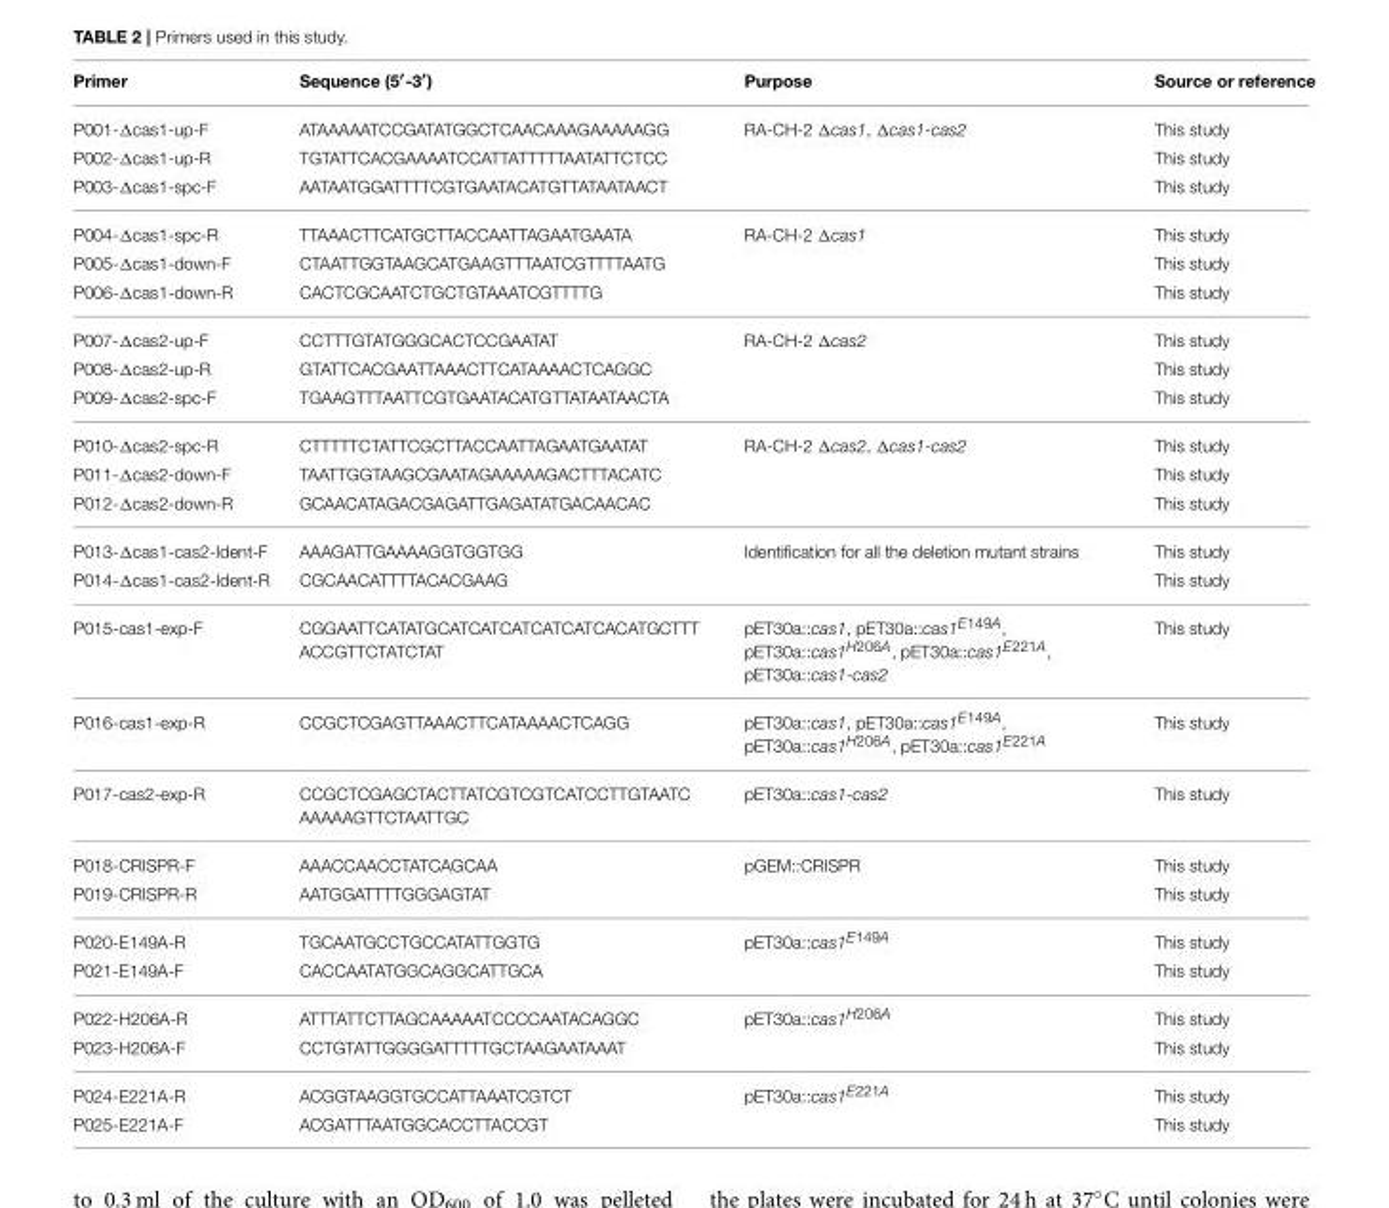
<table><thead><tr><td>Primer</td><td>Sequence (5′-3′)</td><td>Purpose</td><td>Source or reference</td></tr></thead><tbody><tr><td>P001-Δcas1-up-F</td><td>ATAAAAATCCGATATGGCTCAACAAAGAAAAAGG</td><td>RA-CH-2 Δcas1, Δcas1-cas2</td><td>This study</td></tr><tr><td>P002-Δcas1-up-R</td><td>TGTATTCACGAAAATCCATTATTTTTAATATTCTCC</td><td></td><td>This study</td></tr><tr><td>P003-Δcas1-spc-F</td><td>AATAATGGATTTTCGTGAATACATGTTATAATAACT</td><td></td><td>This study</td></tr><tr><td>P004-Δcas1-spc-R</td><td>TTAAACTTCATGCTTACCAATTAGAATGAATA</td><td>RA-CH-2 Δcas1</td><td>This study</td></tr><tr><td>P005-Δcas1-down-F</td><td>CTAATTGGTAAGCATGAAGTTTAATCGTTTTAATG</td><td></td><td>This study</td></tr><tr><td>P006-Δcas1-down-R</td><td>CACTCGCAATCTGCTGTAAATCGTTTTG</td><td></td><td>This study</td></tr><tr><td>P007-Δcas2-up-F</td><td>CCTTTGTATGGGCACTCCGAATAT</td><td>RA-CH-2 Δcas2</td><td>This study</td></tr><tr><td>P008-Δcas2-up-R</td><td>GTATTCACGAATTAAACTTCATAAAACTCAGGC</td><td></td><td>This study</td></tr><tr><td>P009-Δcas2-spc-F</td><td>TGAAGTTTAATTCGTGAATACATGTTATAATAACTA</td><td></td><td>This study</td></tr><tr><td>P010-Δcas2-spc-R</td><td>CTTTTTCTATTCGCTTACCAATTAGAATGAATAT</td><td>RA-CH-2 Δcas2, Δcas1-cas2</td><td>This study</td></tr><tr><td>P011-Δcas2-down-F</td><td>TAATTGGTAAGCGAATAGAAAAAGACTTTACATC</td><td></td><td>This study</td></tr><tr><td>P012-Δcas2-down-R</td><td>GCAACATAGACGAGATTGAGATATGACAACAC</td><td></td><td>This study</td></tr><tr><td>P013-Δcas1-cas2-Ident-F</td><td>AAAGATTGAAAAGGTGGTGG</td><td>Identification for all the deletion mutant strains</td><td>This study</td></tr><tr><td>P014-Δcas1-cas2-Ident-R</td><td>CGCAACATTTTACACGAAG</td><td></td><td>This study</td></tr><tr><td>P015-cas1-exp-F</td><td>CGGAATTCATATGCATCATCATCATCATCACATGCTTT ACCGTTCTATCTAT</td><td>pET30a::cas1, pET30a::cas1E149A, pET30a::cas1H206A, pET30a::cas1E221A, pET30a::cas1-cas2</td><td>This study</td></tr><tr><td>P016-cas1-exp-R</td><td>CCGCTCGAGTTAAACTTCATAAAACTCAGG</td><td>pET30a::cas1, pET30a::cas1E149A, pET30a::cas1H206A, pET30a::cas1E221A</td><td>This study</td></tr><tr><td>P017-cas2-exp-R</td><td>CCGCTCGAGCTACTTATCGTCGTCATCCTTGTAATC AAAAAGTTCTAATTGC</td><td>pET30a::cas1-cas2</td><td>This study</td></tr><tr><td>P018-CRISPR-F</td><td>AAACCAACCTATCAGCAA</td><td>pGEM::CRISPR</td><td>This study</td></tr><tr><td>P019-CRISPR-R</td><td>AATGGATTTTGGGAGTAT</td><td></td><td>This study</td></tr><tr><td>P020-E149A-R</td><td>TGCAATGCCTGCCATATTGGTG</td><td>pET30a::cas1E149A</td><td>This study</td></tr><tr><td>P021-E149A-F</td><td>CACCAATATGGCAGGCATTGCA</td><td></td><td>This study</td></tr><tr><td>P022-H206A-R</td><td>ATTTATTCTTAGCAAAAATCCCCAATACAGGC</td><td>pET30a::cas1H206A</td><td>This study</td></tr><tr><td>P023-H206A-F</td><td>CCTGTATTGGGGATTTTTGCTAAGAATAAAT</td><td></td><td>This study</td></tr><tr><td>P024-E221A-R</td><td>ACGGTAAGGTGCCATTAAATCGTCT</td><td>pET30a::cas1E221A</td><td>This study</td></tr><tr><td>P025-E221A-F</td><td>ACGATTTAATGGCACCTTACCGT</td><td></td><td>This study</td></tr></tbody></table>